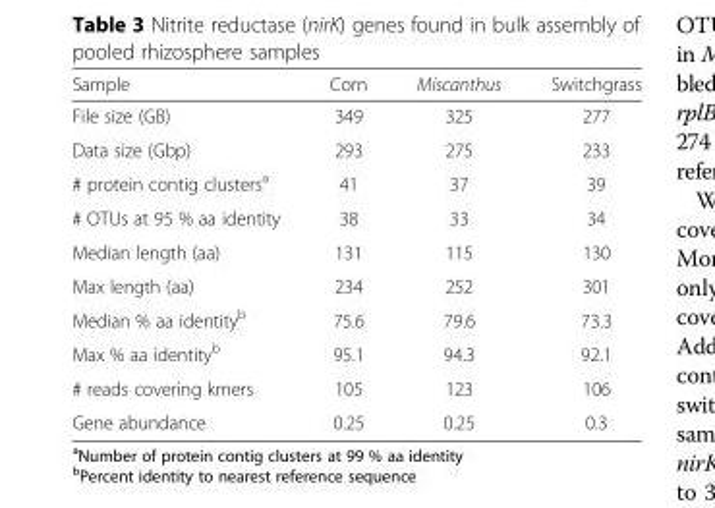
<table><thead><tr><td>Sample</td><td>Corn</td><td>Miscanthus</td><td>Switchgrass</td></tr></thead><tbody><tr><td>File size (GB)</td><td>349</td><td>325</td><td>277</td></tr><tr><td>Data size (Gbp)</td><td>293</td><td>275</td><td>233</td></tr><tr><td># protein contig clusters<sup>a</sup></td><td>41</td><td>37</td><td>39</td></tr><tr><td># OTUs at 95 % aa identity</td><td>38</td><td>33</td><td>34</td></tr><tr><td>Median length (aa)</td><td>131</td><td>115</td><td>130</td></tr><tr><td>Max length (aa)</td><td>234</td><td>252</td><td>301</td></tr><tr><td>Median % aa identity<sup>b</sup></td><td>75.6</td><td>79.6</td><td>73.3</td></tr><tr><td>Max % aa identity<sup>b</sup></td><td>95.1</td><td>94.3</td><td>92.1</td></tr><tr><td># reads covering kmers</td><td>105</td><td>123</td><td>106</td></tr><tr><td>Gene abundance</td><td>0.25</td><td>0.25</td><td>0.3</td></tr></tbody></table>